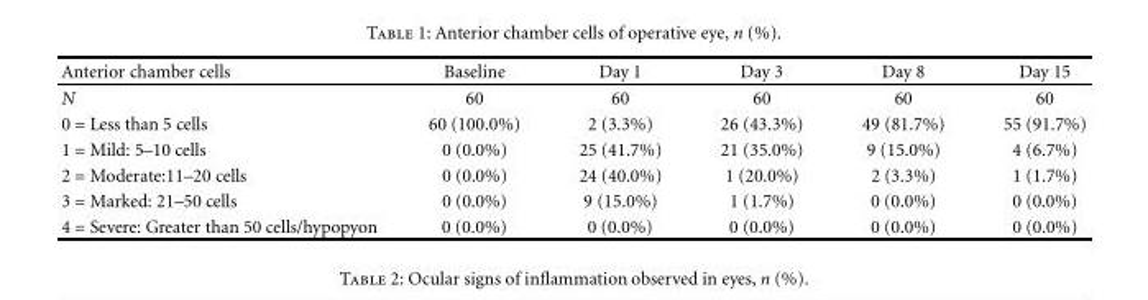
<table><thead><tr><td>Anterior chamber cells</td><td>Baseline</td><td>Day 1</td><td>Day 3</td><td>Day 8</td><td>Day 15</td></tr></thead><tbody><tr><td>N</td><td>60</td><td>60</td><td>60</td><td>60</td><td>60</td></tr><tr><td>0 = Less than 5 cells</td><td>60 (100.0%)</td><td>2 (3.3%)</td><td>26 (43.3%)</td><td>49 (81.7%)</td><td>55 (91.7%)</td></tr><tr><td>1 = Mild: 5–10 cells</td><td>0 (0.0%)</td><td>25 (41.7%)</td><td>21 (35.0%)</td><td>9 (15.0%)</td><td>4 (6.7%)</td></tr><tr><td>2 = Moderate:11–20 cells</td><td>0 (0.0%)</td><td>24 (40.0%)</td><td>1 (20.0%)</td><td>2 (3.3%)</td><td>1 (1.7%)</td></tr><tr><td>3 = Marked: 21–50 cells</td><td>0 (0.0%)</td><td>9 (15.0%)</td><td>1 (1.7%)</td><td>0 (0.0%)</td><td>0 (0.0%)</td></tr><tr><td>4 = Severe: Greater than 50 cells/hypopyon</td><td>0 (0.0%)</td><td>0 (0.0%)</td><td>0 (0.0%)</td><td>0 (0.0%)</td><td>0 (0.0%)</td></tr></tbody></table>